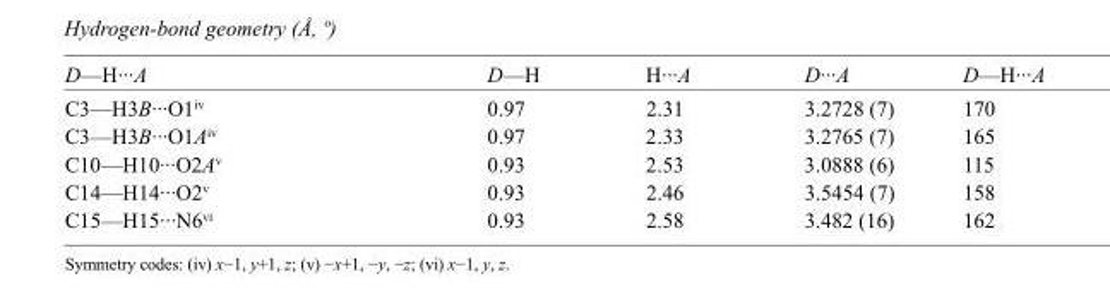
<table><tbody><tr><td>D—H···A</td><td>D—H</td><td>H···A</td><td>D···A</td><td>D—H···A</td></tr><tr><td>C3—H3B···O1<sup>iv</sup></td><td>0.97</td><td>2.31</td><td>3.2728 (7)</td><td>170</td></tr><tr><td>C3—H3B···O1A<sup>iv</sup></td><td>0.97</td><td>2.33</td><td>3.2765 (7)</td><td>165</td></tr><tr><td>C10—H10···O2A<sup>v</sup></td><td>0.93</td><td>2.53</td><td>3.0888 (6)</td><td>115</td></tr><tr><td>C14—H14···O2<sup>v</sup></td><td>0.93</td><td>2.46</td><td>3.5454 (7)</td><td>158</td></tr><tr><td>C15—H15···N6<sup>vi</sup></td><td>0.93</td><td>2.58</td><td>3.482 (16)</td><td>162</td></tr></tbody></table>